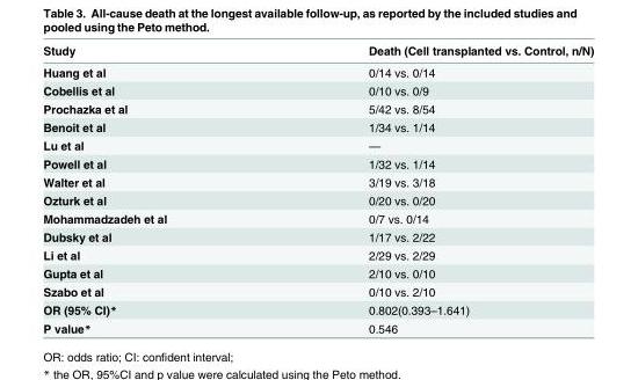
<table><thead><tr><td>Study</td><td>Death (Cell transplanted vs. Control, n/N)</td></tr></thead><tbody><tr><td>Huang et al</td><td>0/14 vs. 0/14</td></tr><tr><td>Cobellis et al</td><td>0/10 vs. 0/9</td></tr><tr><td>Prochazka et al</td><td>5/42 vs. 8/54</td></tr><tr><td>Benoit et al</td><td>1/34 vs. 1/14</td></tr><tr><td>Lu et al</td><td>—</td></tr><tr><td>Powell et al</td><td>1/32 vs. 1/14</td></tr><tr><td>Walter et al</td><td>3/19 vs. 3/18</td></tr><tr><td>Ozturk et al</td><td>0/20 vs. 0/20</td></tr><tr><td>Mohammadzadeh et al</td><td>0/7 vs. 0/14</td></tr><tr><td>Dubsky et al</td><td>1/17 vs. 2/22</td></tr><tr><td>Li et al</td><td>2/29 vs. 2/29</td></tr><tr><td>Gupta et al</td><td>2/10 vs. 0/10</td></tr><tr><td>Szabo et al</td><td>0/10 vs. 2/10</td></tr><tr><td>OR (95% CI)*</td><td>0.802(0.393–1.641)</td></tr><tr><td>P value*</td><td>0.546</td></tr></tbody></table>